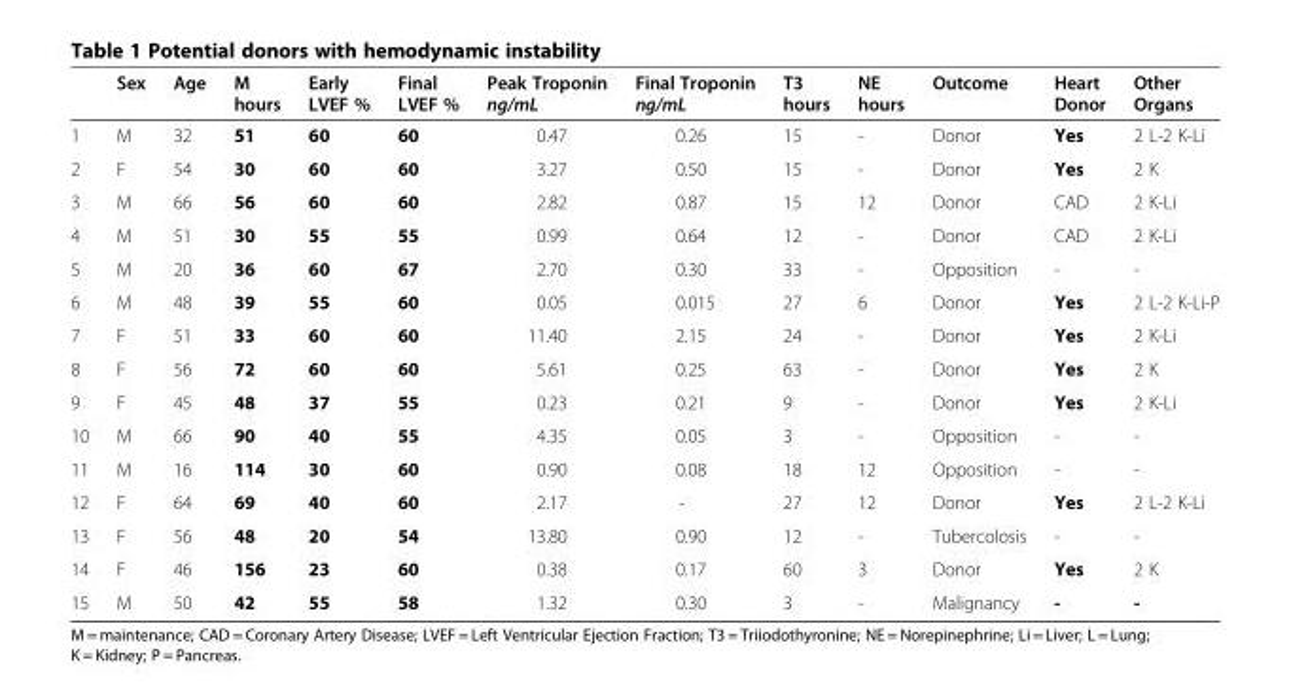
<table><thead><tr><td></td><td>Sex</td><td>Age</td><td>M hours</td><td>Early LVEF %</td><td>Final LVEF %</td><td>Peak Troponin ng/mL</td><td>Final Troponin ng/mL</td><td>T3 hours</td><td>NE hours</td><td>Outcome</td><td>Heart Donor</td><td>Other Organs</td></tr></thead><tbody><tr><td>1</td><td>M</td><td>32</td><td>51</td><td>60</td><td>60</td><td>0.47</td><td>0.26</td><td>15</td><td>-</td><td>Donor</td><td>Yes</td><td>2 L-2 K-Li</td></tr><tr><td>2</td><td>F</td><td>54</td><td>30</td><td>60</td><td>60</td><td>3.27</td><td>0.50</td><td>15</td><td>-</td><td>Donor</td><td>Yes</td><td>2 K</td></tr><tr><td>3</td><td>M</td><td>66</td><td>56</td><td>60</td><td>60</td><td>2.82</td><td>0.87</td><td>15</td><td>12</td><td>Donor</td><td>CAD</td><td>2 K-Li</td></tr><tr><td>4</td><td>M</td><td>51</td><td>30</td><td>55</td><td>55</td><td>0.99</td><td>0.64</td><td>12</td><td>-</td><td>Donor</td><td>CAD</td><td>2 K-Li</td></tr><tr><td>5</td><td>M</td><td>20</td><td>36</td><td>60</td><td>67</td><td>2.70</td><td>0.30</td><td>33</td><td>-</td><td>Opposition</td><td>-</td><td>-</td></tr><tr><td>6</td><td>M</td><td>48</td><td>39</td><td>55</td><td>60</td><td>0.05</td><td>0.015</td><td>27</td><td>6</td><td>Donor</td><td>Yes</td><td>2 L-2 K-Li-P</td></tr><tr><td>7</td><td>F</td><td>51</td><td>33</td><td>60</td><td>60</td><td>11.40</td><td>2.15</td><td>24</td><td>-</td><td>Donor</td><td>Yes</td><td>2 K-Li</td></tr><tr><td>8</td><td>F</td><td>56</td><td>72</td><td>60</td><td>60</td><td>5.61</td><td>0.25</td><td>63</td><td>-</td><td>Donor</td><td>Yes</td><td>2 K</td></tr><tr><td>9</td><td>F</td><td>45</td><td>48</td><td>37</td><td>55</td><td>0.23</td><td>0.21</td><td>9</td><td>-</td><td>Donor</td><td>Yes</td><td>2 K-Li</td></tr><tr><td>10</td><td>M</td><td>66</td><td>90</td><td>40</td><td>55</td><td>4.35</td><td>0.05</td><td>3</td><td>-</td><td>Opposition</td><td>-</td><td>-</td></tr><tr><td>11</td><td>M</td><td>16</td><td>114</td><td>30</td><td>60</td><td>0.90</td><td>0.08</td><td>18</td><td>12</td><td>Opposition</td><td>-</td><td>-</td></tr><tr><td>12</td><td>F</td><td>64</td><td>69</td><td>40</td><td>60</td><td>2.17</td><td>-</td><td>27</td><td>12</td><td>Donor</td><td>Yes</td><td>2 L-2 K-Li</td></tr><tr><td>13</td><td>F</td><td>56</td><td>48</td><td>20</td><td>54</td><td>13.80</td><td>0.90</td><td>12</td><td>-</td><td>Tubercolosis</td><td>-</td><td>-</td></tr><tr><td>14</td><td>F</td><td>46</td><td>156</td><td>23</td><td>60</td><td>0.38</td><td>0.17</td><td>60</td><td>3</td><td>Donor</td><td>Yes</td><td>2 K</td></tr><tr><td>15</td><td>M</td><td>50</td><td>42</td><td>55</td><td>58</td><td>1.32</td><td>0.30</td><td>3</td><td>-</td><td>Malignancy</td><td>-</td><td>-</td></tr></tbody></table>